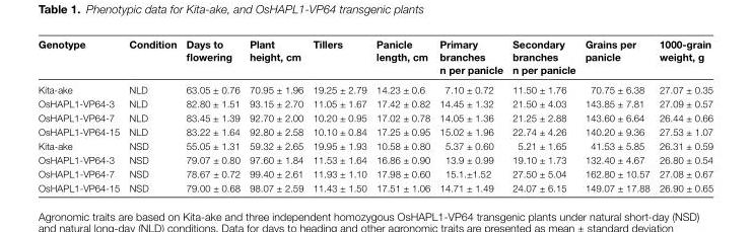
<table><thead><tr><td>Genotype</td><td>Condition</td><td>Days to flowering</td><td>Plant height, cm</td><td>Tillers</td><td>Panicle length, cm</td><td>Primary branches n per panicle</td><td>Secondary branches n per panicle</td><td>Grains per panicle</td><td>1000-grain weight, g</td></tr></thead><tbody><tr><td>Kita-ake</td><td>NLD</td><td>63.05 ± 0.76</td><td>70.95 ± 1.96</td><td>19.25 ± 2.79</td><td>14.23 ± 0.6</td><td>7.10 ± 0.72</td><td>11.50 ± 1.76</td><td>70.75 ± 6.38</td><td>27.07 ± 0.35</td></tr><tr><td>OsHAPL1-VP64-3</td><td>NLD</td><td>82.80 ± 1.51</td><td>93.15 ± 2.70</td><td>11.05 ± 1.67</td><td>17.42 ± 0.82</td><td>14.45 ± 1.32</td><td>21.50 ± 4.03</td><td>143.85 ± 7.81</td><td>27.09 ± 0.57</td></tr><tr><td>OsHAPL1-VP64-7</td><td>NLD</td><td>83.45 ± 1.39</td><td>92.70 ± 2.00</td><td>10.20 ± 0.95</td><td>17.02 ± 0.78</td><td>14.05 ± 1.36</td><td>21.25 ± 2.88</td><td>143.60 ± 6.64</td><td>26.44 ± 0.66</td></tr><tr><td>OsHAPL1-VP64-15</td><td>NLD</td><td>83.22 ± 1.64</td><td>92.80 ± 2.58</td><td>10.10 ± 0.84</td><td>17.25 ± 0.95</td><td>15.02 ± 1.96</td><td>22.74 ± 4.26</td><td>140.20 ± 9.36</td><td>27.53 ± 1.07</td></tr><tr><td>Kita-ake</td><td>NSD</td><td>55.05 ± 1.31</td><td>59.32 ± 2.65</td><td>19.95 ± 1.93</td><td>10.58 ± 0.80</td><td>5.37 ± 0.60</td><td>5.21 ± 1.65</td><td>41.53 ± 5.85</td><td>26.31 ± 0.59</td></tr><tr><td>OsHAPL1-VP64-3</td><td>NSD</td><td>79.07 ± 0.80</td><td>97.60 ± 1.84</td><td>11.53 ± 1.64</td><td>16.86 ± 0.90</td><td>13.9 ± 0.99</td><td>19.10 ± 1.73</td><td>132.40 ± 4.67</td><td>26.80 ± 0.54</td></tr><tr><td>OsHAPL1-VP64-7</td><td>NSD</td><td>78.67 ± 0.72</td><td>99.40 ± 2.61</td><td>11.93 ± 1.10</td><td>17.98 ± 0.60</td><td>15.1.±1.52</td><td>27.50 ± 5.04</td><td>162.80 ± 10.57</td><td>27.08 ± 0.67</td></tr><tr><td>OsHAPL1-VP64-15</td><td>NSD</td><td>79.00 ± 0.68</td><td>98.07 ± 2.59</td><td>11.43 ± 1.50</td><td>17.51 ± 1.06</td><td>14.71 ± 1.49</td><td>24.07 ± 6.15</td><td>149.07 ± 17.88</td><td>26.90 ± 0.65</td></tr></tbody></table>